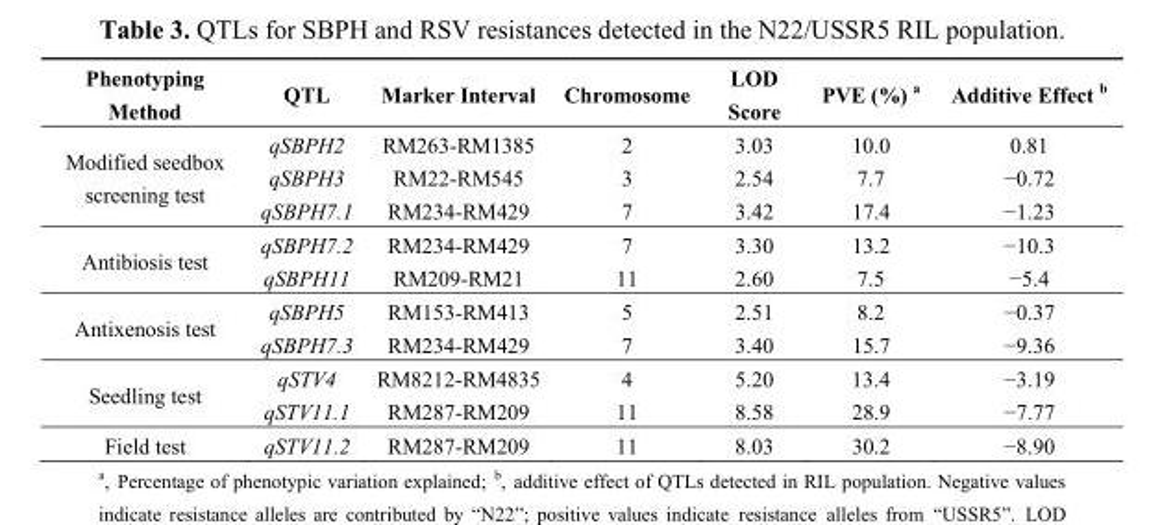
<table><thead><tr><td>Phenotyping Method</td><td>QTL</td><td>Marker Interval</td><td>Chromosome</td><td>LOD Score</td><td>PVE (%) a</td><td>Additive Effect b</td></tr></thead><tbody><tr><td rowspan="3">Modified seedbox screening test</td><td>qSBPH2</td><td>RM263-RM1385</td><td>2</td><td>3.03</td><td>10.0</td><td>0.81</td></tr><tr><td>qSBPH3</td><td>RM22-RM545</td><td>3</td><td>2.54</td><td>7.7</td><td>−0.72</td></tr><tr><td>qSBPH7.1</td><td>RM234-RM429</td><td>7</td><td>3.42</td><td>17.4</td><td>−1.23</td></tr><tr><td rowspan="2">Antibiosis test</td><td>qSBPH7.2</td><td>RM234-RM429</td><td>7</td><td>3.30</td><td>13.2</td><td>−10.3</td></tr><tr><td>qSBPH11</td><td>RM209-RM21</td><td>11</td><td>2.60</td><td>7.5</td><td>−5.4</td></tr><tr><td rowspan="2">Antixenosis test</td><td>qSBPH5</td><td>RM153-RM413</td><td>5</td><td>2.51</td><td>8.2</td><td>−0.37</td></tr><tr><td>qSBPH7.3</td><td>RM234-RM429</td><td>7</td><td>3.40</td><td>15.7</td><td>−9.36</td></tr><tr><td rowspan="2">Seedling test</td><td>qSTV4</td><td>RM8212-RM4835</td><td>4</td><td>5.20</td><td>13.4</td><td>−3.19</td></tr><tr><td>qSTV11.1</td><td>RM287-RM209</td><td>11</td><td>8.58</td><td>28.9</td><td>−7.77</td></tr><tr><td>Field test</td><td>qSTV11.2</td><td>RM287-RM209</td><td>11</td><td>8.03</td><td>30.2</td><td>−8.90</td></tr></tbody></table>